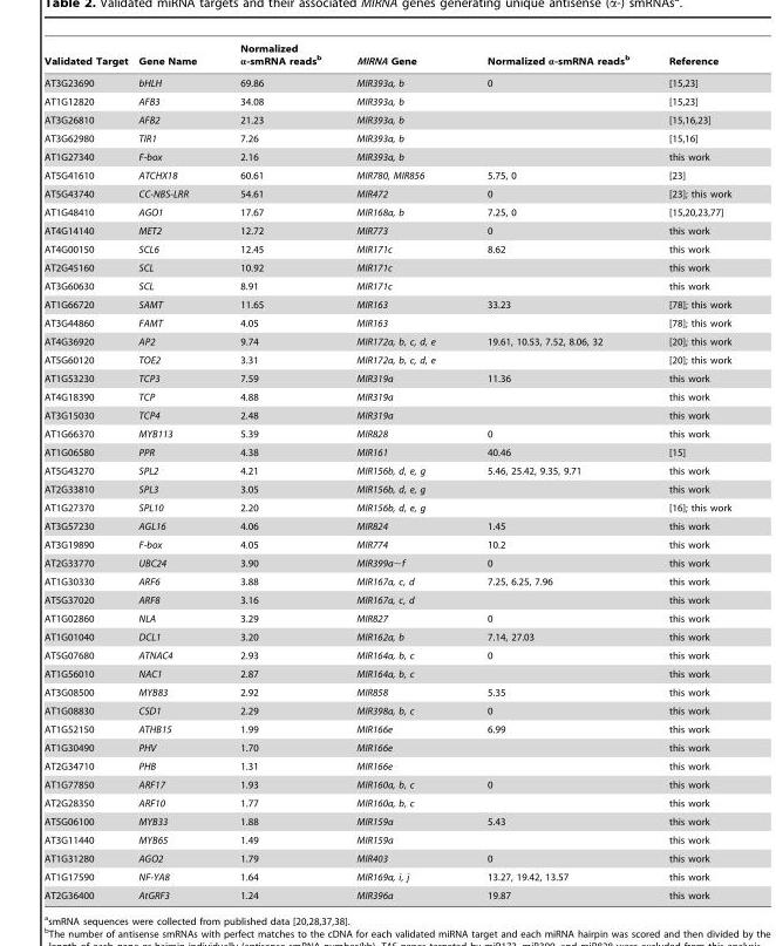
<table><thead><tr><td>Validated Target</td><td>Gene Name</td><td>Normalized α-smRNA reads<sup>b</sup></td><td>MIRNA Gene</td><td>Normalized α-smRNA reads<sup>b</sup></td><td>Reference</td></tr></thead><tbody><tr><td>AT3G23690</td><td>bHLH</td><td>69.86</td><td>MIR393a, b</td><td>0</td><td>[15,23]</td></tr><tr><td>AT1G12820</td><td>AFB3</td><td>34.08</td><td>MIR393a, b</td><td></td><td>[15,23]</td></tr><tr><td>AT3G26810</td><td>AFB2</td><td>21.23</td><td>MIR393a, b</td><td></td><td>[15,16,23]</td></tr><tr><td>AT3G62980</td><td>TIR1</td><td>7.26</td><td>MIR393a, b</td><td></td><td>[15,16]</td></tr><tr><td>AT1G27340</td><td>F-box</td><td>2.16</td><td>MIR393a, b</td><td></td><td>this work</td></tr><tr><td>AT5G41610</td><td>ATCHX18</td><td>60.61</td><td>MIR780, MIR856</td><td>5.75, 0</td><td>[23]</td></tr><tr><td>AT5G43740</td><td>CC-NBS-LRR</td><td>54.61</td><td>MIR472</td><td>0</td><td>[23]; this work</td></tr><tr><td>AT1G48410</td><td>AGO1</td><td>17.67</td><td>MIR168a, b</td><td>7.25, 0</td><td>[15,20,23,77]</td></tr><tr><td>AT4G14140</td><td>MET2</td><td>12.72</td><td>MIR773</td><td>0</td><td>this work</td></tr><tr><td>AT4G00150</td><td>SCL6</td><td>12.45</td><td>MIR171c</td><td>8.62</td><td>this work</td></tr><tr><td>AT2G45160</td><td>SCL</td><td>10.92</td><td>MIR171c</td><td></td><td>this work</td></tr><tr><td>AT3G60630</td><td>SCL</td><td>8.91</td><td>MIR171c</td><td></td><td>this work</td></tr><tr><td>AT1G66720</td><td>SAMT</td><td>11.65</td><td>MIR163</td><td>33.23</td><td>[78]; this work</td></tr><tr><td>AT3G44860</td><td>FAMT</td><td>4.05</td><td>MIR163</td><td></td><td>[78]; this work</td></tr><tr><td>AT4G36920</td><td>AP2</td><td>9.74</td><td>MIR172a, b, c, d, e</td><td>19.61, 10.53, 7.52, 8.06, 32</td><td>[20]; this work</td></tr><tr><td>AT5G60120</td><td>TOE2</td><td>3.31</td><td>MIR172a, b, c, d, e</td><td></td><td>[20]; this work</td></tr><tr><td>AT1G53230</td><td>TCP3</td><td>7.59</td><td>MIR319a</td><td>11.36</td><td>this work</td></tr><tr><td>AT4G18390</td><td>TCP</td><td>4.88</td><td>MIR319a</td><td></td><td>this work</td></tr><tr><td>AT3G15030</td><td>TCP4</td><td>2.48</td><td>MIR319a</td><td></td><td>this work</td></tr><tr><td>AT1G66370</td><td>MYB113</td><td>5.39</td><td>MIR828</td><td>0</td><td>this work</td></tr><tr><td>AT1G06580</td><td>PPR</td><td>4.38</td><td>MIR161</td><td>40.46</td><td>[15]</td></tr><tr><td>AT5G43270</td><td>SPL2</td><td>4.21</td><td>MIR156b, d, e, g</td><td>5.46, 25.42, 9.35, 9.71</td><td>this work</td></tr><tr><td>AT2G33810</td><td>SPL3</td><td>3.05</td><td>MIR156b, d, e, g</td><td></td><td>this work</td></tr><tr><td>AT1G27370</td><td>SPL10</td><td>2.20</td><td>MIR156b, d, e, g</td><td></td><td>[16]; this work</td></tr><tr><td>AT3G57230</td><td>AGL16</td><td>4.06</td><td>MIR824</td><td>1.45</td><td>this work</td></tr><tr><td>AT3G19890</td><td>F-box</td><td>4.05</td><td>MIR774</td><td>10.2</td><td>this work</td></tr><tr><td>AT2G33770</td><td>UBC24</td><td>3.90</td><td>MIR399a∼f</td><td>0</td><td>this work</td></tr><tr><td>AT1G30330</td><td>ARF6</td><td>3.88</td><td>MIR167a, c, d</td><td>7.25, 6.25, 7.96</td><td>this work</td></tr><tr><td>AT5G37020</td><td>ARF8</td><td>3.16</td><td>MIR167a, c, d</td><td></td><td>this work</td></tr><tr><td>AT1G02860</td><td>NLA</td><td>3.29</td><td>MIR827</td><td>0</td><td>this work</td></tr><tr><td>AT1G01040</td><td>DCL1</td><td>3.20</td><td>MIR162a, b</td><td>7.14, 27.03</td><td>this work</td></tr><tr><td>AT5G07680</td><td>ATNAC4</td><td>2.93</td><td>MIR164a, b, c</td><td>0</td><td>this work</td></tr><tr><td>AT1G56010</td><td>NAC1</td><td>2.87</td><td>MIR164a, b, c</td><td></td><td>this work</td></tr><tr><td>AT3G08500</td><td>MYB83</td><td>2.92</td><td>MIR858</td><td>5.35</td><td>this work</td></tr><tr><td>AT1G08830</td><td>CSD1</td><td>2.29</td><td>MIR398a, b, c</td><td>0</td><td>this work</td></tr><tr><td>AT1G52150</td><td>ATHB15</td><td>1.99</td><td>MIR166e</td><td>6.99</td><td>this work</td></tr><tr><td>AT1G30490</td><td>PHV</td><td>1.70</td><td>MIR166e</td><td></td><td>this work</td></tr><tr><td>AT2G34710</td><td>PHB</td><td>1.31</td><td>MIR166e</td><td></td><td>this work</td></tr><tr><td>AT1G77850</td><td>ARF17</td><td>1.93</td><td>MIR160a, b, c</td><td>0</td><td>this work</td></tr><tr><td>AT2G28350</td><td>ARF10</td><td>1.77</td><td>MIR160a, b, c</td><td></td><td>this work</td></tr><tr><td>AT5G06100</td><td>MYB33</td><td>1.88</td><td>MIR159a</td><td>5.43</td><td>this work</td></tr><tr><td>AT3G11440</td><td>MYB65</td><td>1.49</td><td>MIR159a</td><td></td><td>this work</td></tr><tr><td>AT1G31280</td><td>AGO2</td><td>1.79</td><td>MIR403</td><td>0</td><td>this work</td></tr><tr><td>AT1G17590</td><td>NF-YA8</td><td>1.64</td><td>MIR169a, i, j</td><td>13.27, 19.42, 13.57</td><td>this work</td></tr><tr><td>AT2G36400</td><td>AtGRF3</td><td>1.24</td><td>MIR396a</td><td>19.87</td><td>this work</td></tr></tbody></table>